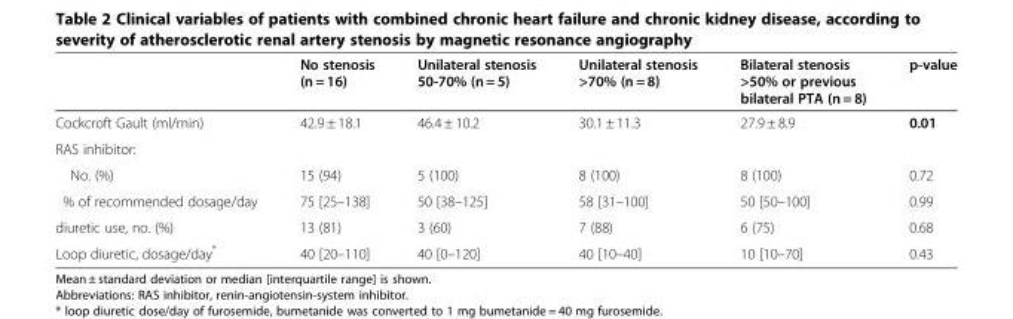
<table><thead><tr><td></td><td>No stenosis (n = 16)</td><td>Unilateral stenosis 50-70% (n = 5)</td><td>Unilateral stenosis &gt;70% (n = 8)</td><td>Bilateral stenosis &gt;50% or previous bilateral PTA (n = 8)</td><td>p-value</td></tr></thead><tbody><tr><td>Cockcroft Gault (ml/min)</td><td>42.9 ± 18.1</td><td>46.4 ± 10.2</td><td>30.1 ± 11.3</td><td>27.9 ± 8.9</td><td>0.01</td></tr><tr><td colspan="6">RAS inhibitor:</td></tr><tr><td>No. (%)</td><td>15 (94)</td><td>5 (100)</td><td>8 (100)</td><td>8 (100)</td><td>0.72</td></tr><tr><td>% of recommended dosage/day</td><td>75 [25–138]</td><td>50 [38–125]</td><td>58 [31–100]</td><td>50 [50–100]</td><td>0.99</td></tr><tr><td>diuretic use, no. (%)</td><td>13 (81)</td><td>3 (60)</td><td>7 (88)</td><td>6 (75)</td><td>0.68</td></tr><tr><td>Loop diuretic, dosage/day*</td><td>40 [20–110]</td><td>40 [0–120]</td><td>40 [10–40]</td><td>10 [10–70]</td><td>0.43</td></tr></tbody></table>